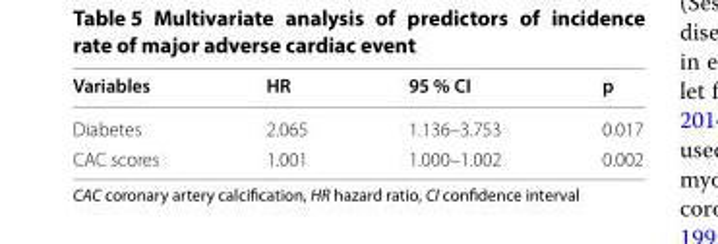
<table><thead><tr><td>Variables</td><td>HR</td><td>95 % CI</td><td>p</td></tr></thead><tbody><tr><td>Diabetes</td><td>2.065</td><td>1.136–3.753</td><td>0.017</td></tr><tr><td>CAC scores</td><td>1.001</td><td>1.000–1.002</td><td>0.002</td></tr></tbody></table>